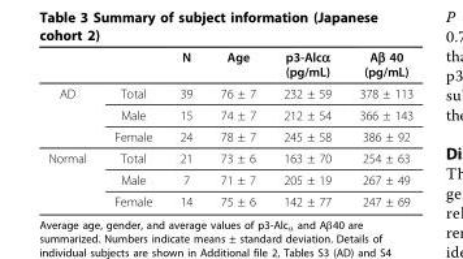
<table><thead><tr><td></td><td></td><td>N</td><td>Age</td><td>p3-Alcα (pg/mL)</td><td>Aβ 40 (pg/mL)</td></tr></thead><tbody><tr><td rowspan="3">AD</td><td>Total</td><td>39</td><td>76 ± 7</td><td>232 ± 59</td><td>378 ± 113</td></tr><tr><td>Male</td><td>15</td><td>74 ± 7</td><td>212 ± 54</td><td>366 ± 143</td></tr><tr><td>Female</td><td>24</td><td>78 ± 7</td><td>245 ± 58</td><td>386 ± 92</td></tr><tr><td rowspan="3">Normal</td><td>Total</td><td>21</td><td>73 ± 6</td><td>163 ± 70</td><td>254 ± 63</td></tr><tr><td>Male</td><td>7</td><td>71 ± 7</td><td>205 ± 19</td><td>267 ± 49</td></tr><tr><td>Female</td><td>14</td><td>75 ± 6</td><td>142 ± 77</td><td>247 ± 69</td></tr></tbody></table>